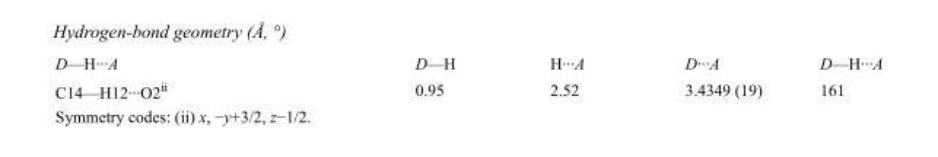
<table><tbody><tr><td>D—H···A</td><td>D—H</td><td>H···A</td><td>D···A</td><td>D—H···A</td></tr><tr><td>C14—H12···O2<sup>ii</sup></td><td>0.95</td><td>2.52</td><td>3.4349 (19)</td><td>161</td></tr></tbody></table>